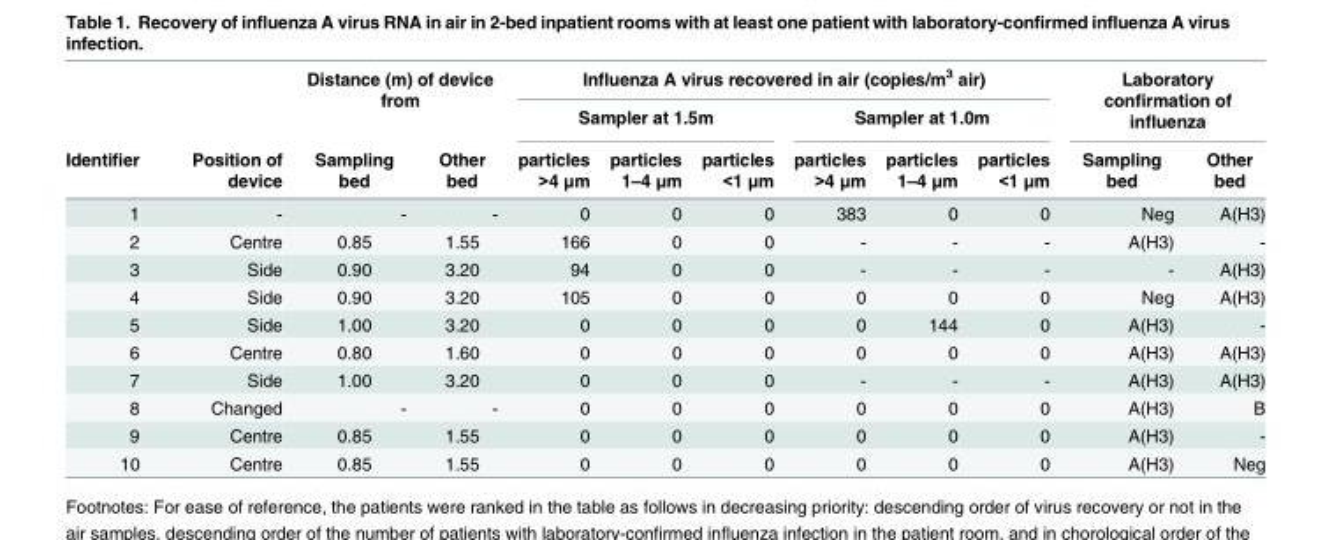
<table><thead><tr><td rowspan="4">Identifier</td><td rowspan="4">Position of device</td><td rowspan="2" colspan="2">Distance (m) of device from</td><td colspan="6">Influenza A virus recovered in air (copies/m<sup>3</sup> air)</td><td rowspan="2" colspan="2">Laboratory confirmation of influenza</td></tr><tr><td colspan="3">Sampler at 1.5m</td><td colspan="3">Sampler at 1.0m</td></tr><tr><td rowspan="2">Sampling bed</td><td rowspan="2">Other bed</td><td rowspan="2">particles &gt;4 μm</td><td rowspan="2">particles 1–4 μm</td><td rowspan="2">particles &lt;1 μm</td><td rowspan="2">particles &gt;4 μm</td><td rowspan="2">particles 1–4 μm</td><td rowspan="2">particles &lt;1 μm</td><td rowspan="2">Sampling bed</td><td rowspan="2">Other bed</td></tr><tr></tr></thead><tbody><tr><td>1</td><td>-</td><td>-</td><td>-</td><td>0</td><td>0</td><td>0</td><td>383</td><td>0</td><td>0</td><td>Neg</td><td>A(H3)</td></tr><tr><td>2</td><td>Centre</td><td>0.85</td><td>1.55</td><td>166</td><td>0</td><td>0</td><td>-</td><td>-</td><td>-</td><td>A(H3)</td><td>-</td></tr><tr><td>3</td><td>Side</td><td>0.90</td><td>3.20</td><td>94</td><td>0</td><td>0</td><td>-</td><td>-</td><td>-</td><td>-</td><td>A(H3)</td></tr><tr><td>4</td><td>Side</td><td>0.90</td><td>3.20</td><td>105</td><td>0</td><td>0</td><td>0</td><td>0</td><td>0</td><td>Neg</td><td>A(H3)</td></tr><tr><td>5</td><td>Side</td><td>1.00</td><td>3.20</td><td>0</td><td>0</td><td>0</td><td>0</td><td>144</td><td>0</td><td>A(H3)</td><td>-</td></tr><tr><td>6</td><td>Centre</td><td>0.80</td><td>1.60</td><td>0</td><td>0</td><td>0</td><td>0</td><td>0</td><td>0</td><td>A(H3)</td><td>A(H3)</td></tr><tr><td>7</td><td>Side</td><td>1.00</td><td>3.20</td><td>0</td><td>0</td><td>0</td><td>-</td><td>-</td><td>-</td><td>A(H3)</td><td>A(H3)</td></tr><tr><td>8</td><td>Changed</td><td>-</td><td>-</td><td>0</td><td>0</td><td>0</td><td>0</td><td>0</td><td>0</td><td>A(H3)</td><td>B</td></tr><tr><td>9</td><td>Centre</td><td>0.85</td><td>1.55</td><td>0</td><td>0</td><td>0</td><td>0</td><td>0</td><td>0</td><td>A(H3)</td><td>-</td></tr><tr><td>10</td><td>Centre</td><td>0.85</td><td>1.55</td><td>0</td><td>0</td><td>0</td><td>0</td><td>0</td><td>0</td><td>A(H3)</td><td>Neg</td></tr></tbody></table>